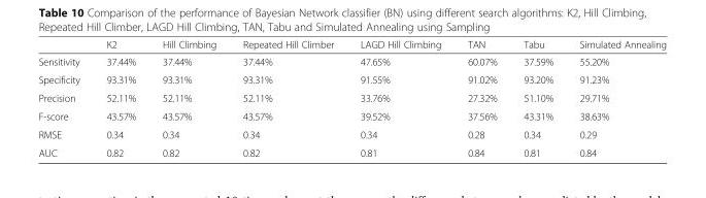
<table><thead><tr><td></td><td>K2</td><td>Hill Climbing</td><td>Repeated Hill Climber</td><td>LAGD Hill Climbing</td><td>TAN</td><td>Tabu</td><td>Simulated Annealing</td></tr></thead><tbody><tr><td>Sensitivity</td><td>37.44%</td><td>37.44%</td><td>37.44%</td><td>47.65%</td><td>60.07%</td><td>37.59%</td><td>55.20%</td></tr><tr><td>Specificity</td><td>93.31%</td><td>93.31%</td><td>93.31%</td><td>91.55%</td><td>91.02%</td><td>93.20%</td><td>91.23%</td></tr><tr><td>Precision</td><td>52.11%</td><td>52.11%</td><td>52.11%</td><td>33.76%</td><td>27.32%</td><td>51.10%</td><td>29.71%</td></tr><tr><td>F-score</td><td>43.57%</td><td>43.57%</td><td>43.57%</td><td>39.52%</td><td>37.56%</td><td>43.31%</td><td>38.63%</td></tr><tr><td>RMSE</td><td>0.34</td><td>0.34</td><td>0.34</td><td>0.34</td><td>0.28</td><td>0.34</td><td>0.29</td></tr><tr><td>AUC</td><td>0.82</td><td>0.82</td><td>0.82</td><td>0.81</td><td>0.84</td><td>0.81</td><td>0.84</td></tr></tbody></table>